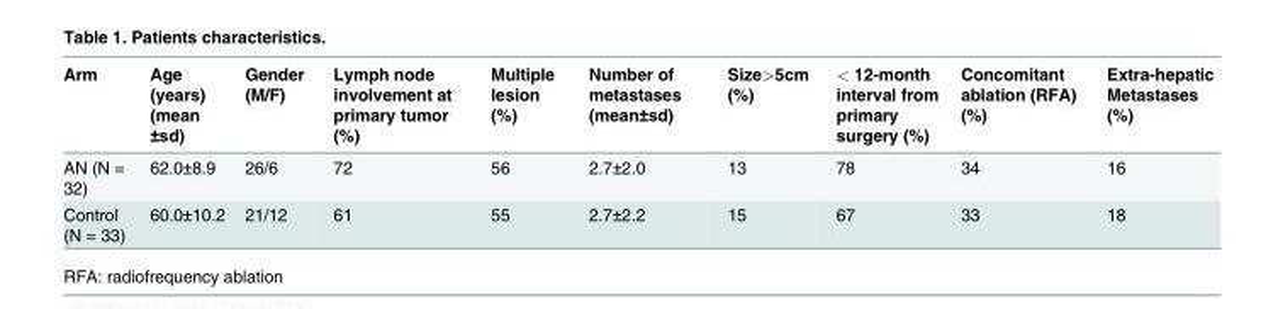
<table><thead><tr><td>Arm</td><td>Age (years) (mean ±sd)</td><td>Gender (M/F)</td><td>Lymph node involvement at primary tumor (%)</td><td>Multiple lesion (%)</td><td>Number of metastases (mean±sd)</td><td>Size&gt;5cm (%)</td><td>&lt; 12-month interval from primary surgery (%)</td><td>Concomitant ablation (RFA) (%)</td><td>Extra-hepatic Metastases (%)</td></tr></thead><tbody><tr><td>AN (N = 32)</td><td>62.0±8.9</td><td>26/6</td><td>72</td><td>56</td><td>2.7±2.0</td><td>13</td><td>78</td><td>34</td><td>16</td></tr><tr><td>Control (N = 33)</td><td>60.0±10.2</td><td>21/12</td><td>61</td><td>55</td><td>2.7±2.2</td><td>15</td><td>67</td><td>33</td><td>18</td></tr></tbody></table>